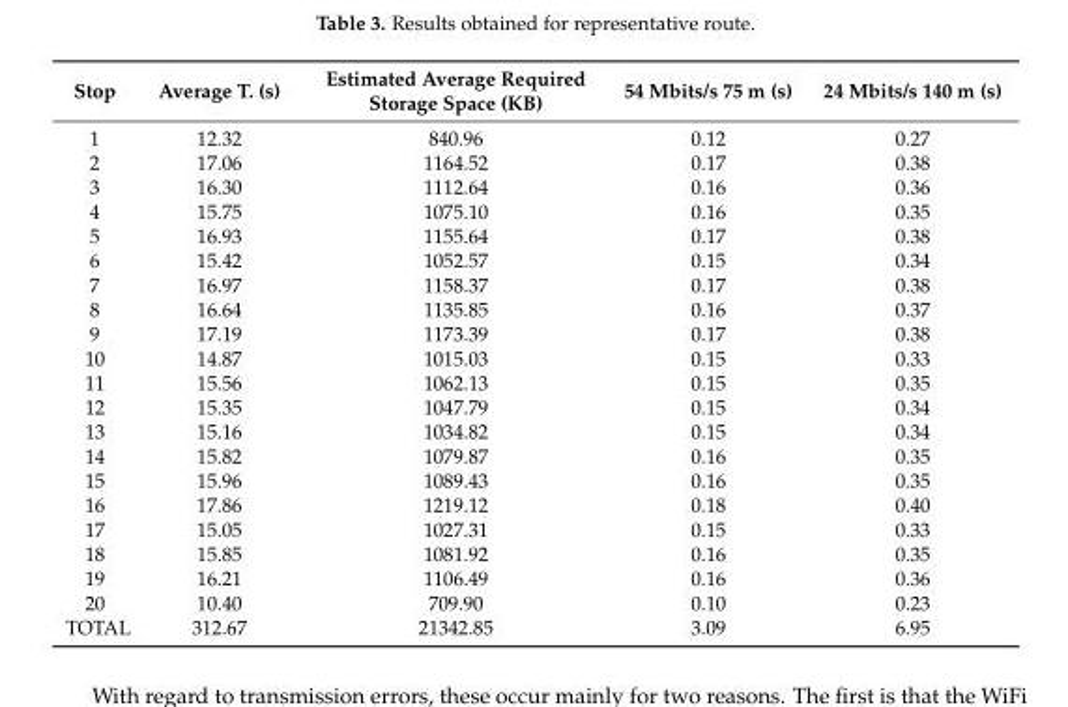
<table><thead><tr><td>Stop</td><td>Average T. (s)</td><td>Estimated Average Required Storage Space (KB)</td><td>54 Mbits/s 75 m (s)</td><td>24 Mbits/s 140 m (s)</td></tr></thead><tbody><tr><td>1</td><td>12.32</td><td>840.96</td><td>0.12</td><td>0.27</td></tr><tr><td>2</td><td>17.06</td><td>1164.52</td><td>0.17</td><td>0.38</td></tr><tr><td>3</td><td>16.30</td><td>1112.64</td><td>0.16</td><td>0.36</td></tr><tr><td>4</td><td>15.75</td><td>1075.10</td><td>0.16</td><td>0.35</td></tr><tr><td>5</td><td>16.93</td><td>1155.64</td><td>0.17</td><td>0.38</td></tr><tr><td>6</td><td>15.42</td><td>1052.57</td><td>0.15</td><td>0.34</td></tr><tr><td>7</td><td>16.97</td><td>1158.37</td><td>0.17</td><td>0.38</td></tr><tr><td>8</td><td>16.64</td><td>1135.85</td><td>0.16</td><td>0.37</td></tr><tr><td>9</td><td>17.19</td><td>1173.39</td><td>0.17</td><td>0.38</td></tr><tr><td>10</td><td>14.87</td><td>1015.03</td><td>0.15</td><td>0.33</td></tr><tr><td>11</td><td>15.56</td><td>1062.13</td><td>0.15</td><td>0.35</td></tr><tr><td>12</td><td>15.35</td><td>1047.79</td><td>0.15</td><td>0.34</td></tr><tr><td>13</td><td>15.16</td><td>1034.82</td><td>0.15</td><td>0.34</td></tr><tr><td>14</td><td>15.82</td><td>1079.87</td><td>0.16</td><td>0.35</td></tr><tr><td>15</td><td>15.96</td><td>1089.43</td><td>0.16</td><td>0.35</td></tr><tr><td>16</td><td>17.86</td><td>1219.12</td><td>0.18</td><td>0.40</td></tr><tr><td>17</td><td>15.05</td><td>1027.31</td><td>0.15</td><td>0.33</td></tr><tr><td>18</td><td>15.85</td><td>1081.92</td><td>0.16</td><td>0.35</td></tr><tr><td>19</td><td>16.21</td><td>1106.49</td><td>0.16</td><td>0.36</td></tr><tr><td>20</td><td>10.40</td><td>709.90</td><td>0.10</td><td>0.23</td></tr><tr><td>TOTAL</td><td>312.67</td><td>21342.85</td><td>3.09</td><td>6.95</td></tr></tbody></table>